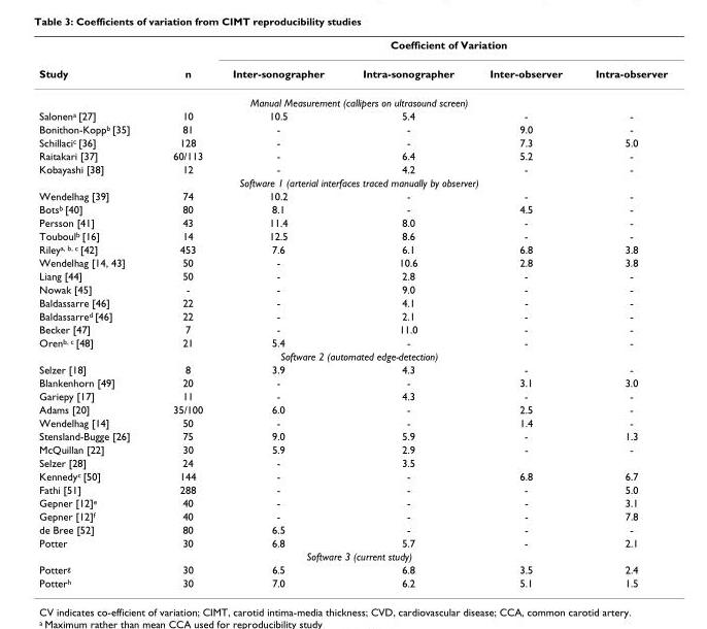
<table><thead><tr><td rowspan="2">Study</td><td rowspan="2">n</td><td colspan="4">Coefficient of Variation</td></tr><tr><td>Inter-sonographer</td><td>Intra-sonographer</td><td>Inter-observer</td><td>Intra-observer</td></tr></thead><tbody><tr><td colspan="6">Manual Measurement (callipers on ultrasound screen)</td></tr><tr><td>Salonen<sup>a</sup> [27]</td><td>10</td><td>10.5</td><td>5.4</td><td>-</td><td>-</td></tr><tr><td>Bonithon-Kopp<sup>b</sup> [35]</td><td>81</td><td>-</td><td>-</td><td>9.0</td><td>-</td></tr><tr><td>Schillaci<sup>c</sup> [36]</td><td>128</td><td>-</td><td>-</td><td>7.3</td><td>5.0</td></tr><tr><td>Raitakari [37]</td><td>60/113</td><td>-</td><td>6.4</td><td>5.2</td><td>-</td></tr><tr><td>Kobayashi [38]</td><td>12</td><td>-</td><td>4.2</td><td>-</td><td>-</td></tr><tr><td colspan="6">Software 1 (arterial interfaces traced manually by observer)</td></tr><tr><td>Wendelhag [39]</td><td>74</td><td>10.2</td><td>-</td><td>-</td><td>-</td></tr><tr><td>Bots<sup>b</sup> [40]</td><td>80</td><td>8.1</td><td>-</td><td>4.5</td><td>-</td></tr><tr><td>Persson [41]</td><td>43</td><td>11.4</td><td>8.0</td><td>-</td><td>-</td></tr><tr><td>Touboul<sup>b</sup> [16]</td><td>14</td><td>12.5</td><td>8.6</td><td>-</td><td>-</td></tr><tr><td>Riley<sup>a, b, c</sup> [42]</td><td>453</td><td>7.6</td><td>6.1</td><td>6.8</td><td>3.8</td></tr><tr><td>Wendelhag [14, 43]</td><td>50</td><td>-</td><td>10.6</td><td>2.8</td><td>3.8</td></tr><tr><td>Liang [44]</td><td>50</td><td>-</td><td>2.8</td><td>-</td><td>-</td></tr><tr><td>Nowak [45]</td><td>-</td><td>-</td><td>9.0</td><td>-</td><td>-</td></tr><tr><td>Baldassarre [46]</td><td>22</td><td>-</td><td>4.1</td><td>-</td><td>-</td></tr><tr><td>Baldassarre<sup>d</sup> [46]</td><td>22</td><td>-</td><td>2.1</td><td>-</td><td>-</td></tr><tr><td>Becker [47]</td><td>7</td><td>-</td><td>11.0</td><td>-</td><td>-</td></tr><tr><td>Oren<sup>b, c</sup> [48]</td><td>21</td><td>5.4</td><td>-</td><td>-</td><td>-</td></tr><tr><td colspan="6">Software 2 (automated edge-detection)</td></tr><tr><td>Selzer [18]</td><td>8</td><td>3.9</td><td>4.3</td><td>-</td><td>-</td></tr><tr><td>Blankenhorn [49]</td><td>20</td><td>-</td><td>-</td><td>3.1</td><td>3.0</td></tr><tr><td>Gariepy [17]</td><td>11</td><td>-</td><td>4.3</td><td>-</td><td>-</td></tr><tr><td>Adams [20]</td><td>35/100</td><td>6.0</td><td>-</td><td>2.5</td><td>-</td></tr><tr><td>Wendelhag [14]</td><td>50</td><td>-</td><td>-</td><td>1.4</td><td>-</td></tr><tr><td>Stensland-Bugge [26]</td><td>75</td><td>9.0</td><td>5.9</td><td>-</td><td>1.3</td></tr><tr><td>McQuillan [22]</td><td>30</td><td>5.9</td><td>2.9</td><td>-</td><td>-</td></tr><tr><td>Selzer [28]</td><td>24</td><td>-</td><td>3.5</td><td></td><td></td></tr><tr><td>Kennedy<sup>c</sup> [50]</td><td>144</td><td>-</td><td>-</td><td>6.8</td><td>6.7</td></tr><tr><td>Fathi [51]</td><td>288</td><td>-</td><td>-</td><td>-</td><td>5.0</td></tr><tr><td>Gepner [12]<sup>e</sup></td><td>40</td><td>-</td><td>-</td><td>-</td><td>3.1</td></tr><tr><td>Gepner [12]<sup>f</sup></td><td>40</td><td>-</td><td>-</td><td>-</td><td>7.8</td></tr><tr><td>de Bree [52]</td><td>80</td><td>6.5</td><td>-</td><td>-</td><td>-</td></tr><tr><td>Potter</td><td>30</td><td>6.8</td><td>5.7</td><td>-</td><td>2.1</td></tr><tr><td colspan="6">Software 3 (current study)</td></tr><tr><td>Potter<sup>g</sup></td><td>30</td><td>6.5</td><td>6.8</td><td>3.5</td><td>2.4</td></tr><tr><td>Potter<sup>h</sup></td><td>30</td><td>7.0</td><td>6.2</td><td>5.1</td><td>1.5</td></tr></tbody></table>